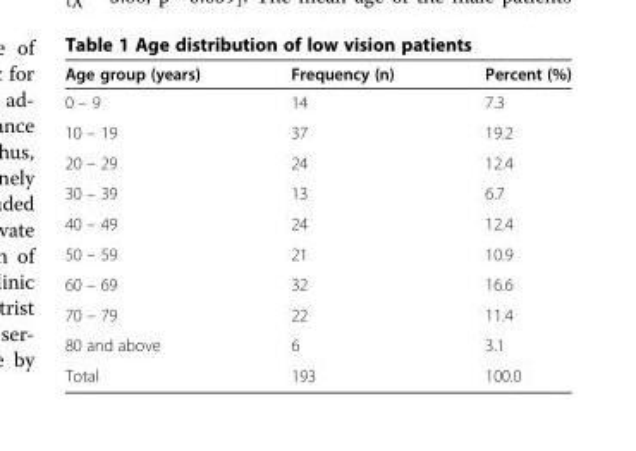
<table><thead><tr><td>Age group (years)</td><td>Frequency (n)</td><td>Percent (%)</td></tr></thead><tbody><tr><td>0 – 9</td><td>14</td><td>7.3</td></tr><tr><td>10 – 19</td><td>37</td><td>19.2</td></tr><tr><td>20 – 29</td><td>24</td><td>12.4</td></tr><tr><td>30 – 39</td><td>13</td><td>6.7</td></tr><tr><td>40 – 49</td><td>24</td><td>12.4</td></tr><tr><td>50 – 59</td><td>21</td><td>10.9</td></tr><tr><td>60 – 69</td><td>32</td><td>16.6</td></tr><tr><td>70 – 79</td><td>22</td><td>11.4</td></tr><tr><td>80 and above</td><td>6</td><td>3.1</td></tr><tr><td>Total</td><td>193</td><td>100.0</td></tr></tbody></table>